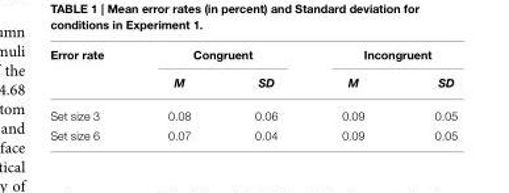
<table><thead><tr><td rowspan="2">Error rate</td><td colspan="2">Congruent</td><td colspan="2">Incongruent</td></tr><tr><td>M</td><td>SD</td><td>M</td><td>SD</td></tr></thead><tbody><tr><td>Set size 3</td><td>0.08</td><td>0.06</td><td>0.09</td><td>0.05</td></tr><tr><td>Set size 6</td><td>0.07</td><td>0.04</td><td>0.09</td><td>0.05</td></tr></tbody></table>